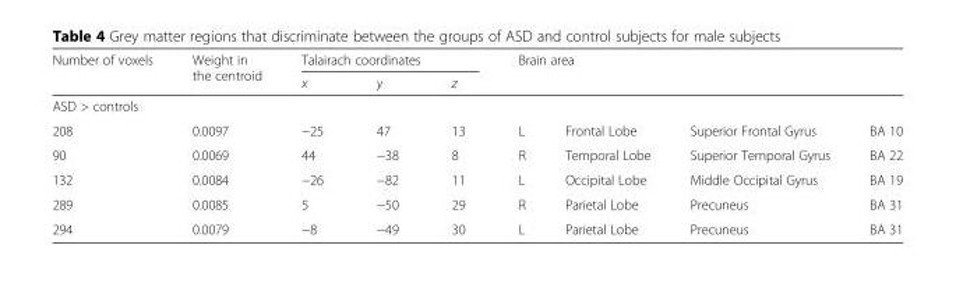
<table><thead><tr><td rowspan="4">Number of voxels ASD &gt; controls 208</td><td rowspan="2">Weight in the centroid</td><td colspan="3">Talairach coordinates</td><td rowspan="2" colspan="4">Brain area</td></tr><tr><td>x</td><td>y</td><td>z</td></tr><tr><td colspan="8"></td></tr><tr><td>0.0097</td><td>−25</td><td>47</td><td>13</td><td>L</td><td>Frontal Lobe</td><td>Superior Frontal Gyrus</td><td>BA 10</td></tr></thead><tbody><tr><td>90</td><td>0.0069</td><td>44</td><td>−38</td><td>8</td><td>R</td><td>Temporal Lobe</td><td>Superior Temporal Gyrus</td><td>BA 22</td></tr><tr><td>132</td><td>0.0084</td><td>−26</td><td>−82</td><td>11</td><td>L</td><td>Occipital Lobe</td><td>Middle Occipital Gyrus</td><td>BA 19</td></tr><tr><td>289</td><td>0.0085</td><td>5</td><td>−50</td><td>29</td><td>R</td><td>Parietal Lobe</td><td>Precuneus</td><td>BA 31</td></tr><tr><td>294</td><td>0.0079</td><td>−8</td><td>−49</td><td>30</td><td>L</td><td>Parietal Lobe</td><td>Precuneus</td><td>BA 31</td></tr></tbody></table>